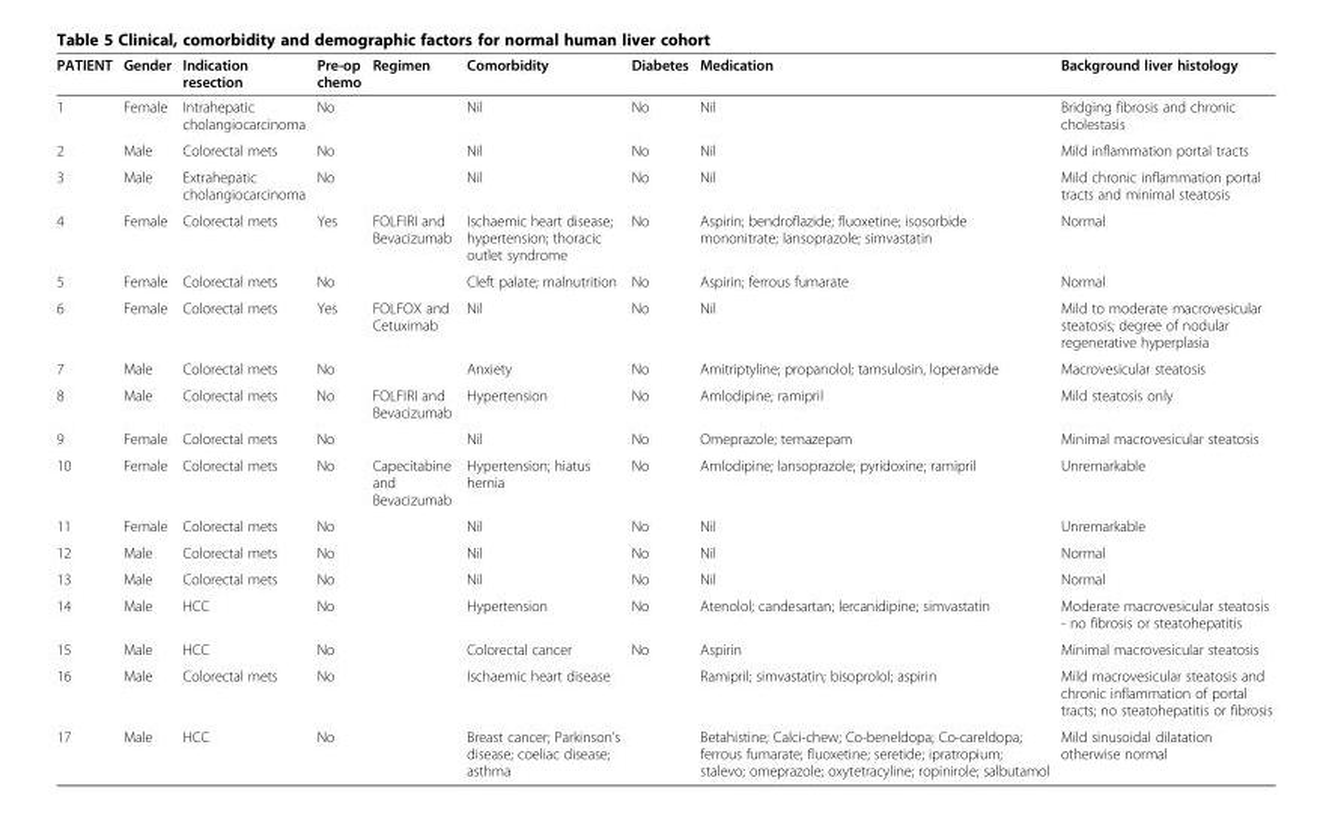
<table><thead><tr><td>PATIENT</td><td>Gender</td><td>Indication resection</td><td>Pre-op chemo</td><td>Regimen</td><td>Comorbidity</td><td>Diabetes</td><td>Medication</td><td>Background liver histology</td></tr></thead><tbody><tr><td>1</td><td>Female</td><td>Intrahepatic cholangiocarcinoma</td><td>No</td><td></td><td>Nil</td><td>No</td><td>Nil</td><td>Bridging fibrosis and chronic cholestasis</td></tr><tr><td>2</td><td>Male</td><td>Colorectal mets</td><td>No</td><td></td><td>Nil</td><td>No</td><td>Nil</td><td>Mild inflammation portal tracts</td></tr><tr><td>3</td><td>Male</td><td>Extrahepatic cholangiocarcinoma</td><td>No</td><td></td><td>Nil</td><td>No</td><td>Nil</td><td>Mild chronic inflammation portal tracts and minimal steatosis</td></tr><tr><td>4</td><td>Female</td><td>Colorectal mets</td><td>Yes</td><td>FOLFIRI and Bevacizumab</td><td>Ischaemic heart disease; hypertension; thoracic outlet syndrome</td><td>No</td><td>Aspirin; bendroflazide; fluoxetine; isosorbide mononitrate; lansoprazole; simvastatin</td><td>Normal</td></tr><tr><td>5</td><td>Female</td><td>Colorectal mets</td><td>No</td><td></td><td>Cleft palate; malnutrition</td><td>No</td><td>Aspirin; ferrous fumarate</td><td>Normal</td></tr><tr><td>6</td><td>Female</td><td>Colorectal mets</td><td>Yes</td><td>FOLFOX and Cetuximab</td><td>Nil</td><td>No</td><td>Nil</td><td>Mild to moderate macrovesicular steatosis; degree of nodular regenerative hyperplasia</td></tr><tr><td>7</td><td>Male</td><td>Colorectal mets</td><td>No</td><td></td><td>Anxiety</td><td>No</td><td>Amitriptyline; propanolol; tamsulosin, loperamide</td><td>Macrovesicular steatosis</td></tr><tr><td>8</td><td>Male</td><td>Colorectal mets</td><td>No</td><td>FOLFIRI and Bevacizumab</td><td>Hypertension</td><td>No</td><td>Amlodipine; ramipril</td><td>Mild steatosis only</td></tr><tr><td>9</td><td>Female</td><td>Colorectal mets</td><td>No</td><td></td><td>Nil</td><td>No</td><td>Omeprazole; temazepam</td><td>Minimal macrovesicular steatosis</td></tr><tr><td>10</td><td>Female</td><td>Colorectal mets</td><td>No</td><td>Capecitabine and Bevacizumab</td><td>Hypertension; hiatus hernia</td><td>No</td><td>Amlodipine; lansoprazole; pyridoxine; ramipril</td><td>Unremarkable</td></tr><tr><td>11</td><td>Female</td><td>Colorectal mets</td><td>No</td><td></td><td>Nil</td><td>No</td><td>Nil</td><td>Unremarkable</td></tr><tr><td>12</td><td>Male</td><td>Colorectal mets</td><td>No</td><td></td><td>Nil</td><td>No</td><td>Nil</td><td>Normal</td></tr><tr><td>13</td><td>Male</td><td>Colorectal mets</td><td>No</td><td></td><td>Nil</td><td>No</td><td>Nil</td><td>Normal</td></tr><tr><td>14</td><td>Male</td><td>HCC</td><td>No</td><td></td><td>Hypertension</td><td>No</td><td>Atenolol; candesartan; lercanidipine; simvastatin</td><td>Moderate macrovesicular steatosis - no fibrosis or steatohepatitis</td></tr><tr><td>15</td><td>Male</td><td>HCC</td><td>No</td><td></td><td>Colorectal cancer</td><td>No</td><td>Aspirin</td><td>Minimal macrovesicular steatosis</td></tr><tr><td>16</td><td>Male</td><td>Colorectal mets</td><td>No</td><td></td><td>Ischaemic heart disease</td><td></td><td>Ramipril; simvastatin; bisoprolol; aspirin</td><td>Mild macrovesicular steatosis and chronic inflammation of portal tracts; no steatohepatitis or fibrosis</td></tr><tr><td>17</td><td>Male</td><td>HCC</td><td>No</td><td></td><td>Breast cancer; Parkinson’s disease; coeliac disease; asthma</td><td></td><td>Betahistine; Calci-chew; Co-beneldopa; Co-careldopa; ferrous fumarate; fluoxetine; seretide; ipratropium; stalevo; omeprazole; oxytetracyline; ropinirole; salbutamol</td><td>Mild sinusoidal dilatation otherwise normal</td></tr></tbody></table>